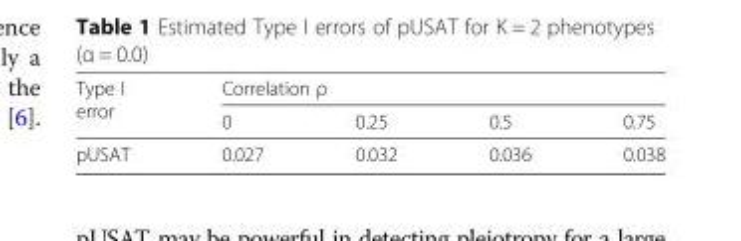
<table><thead><tr><td rowspan="2">Type I error</td><td colspan="4">Correlation ρ</td></tr><tr><td>0</td><td>0.25</td><td>0.5</td><td>0.75</td></tr></thead><tbody><tr><td>pUSAT</td><td>0.027</td><td>0.032</td><td>0.036</td><td>0.038</td></tr></tbody></table>